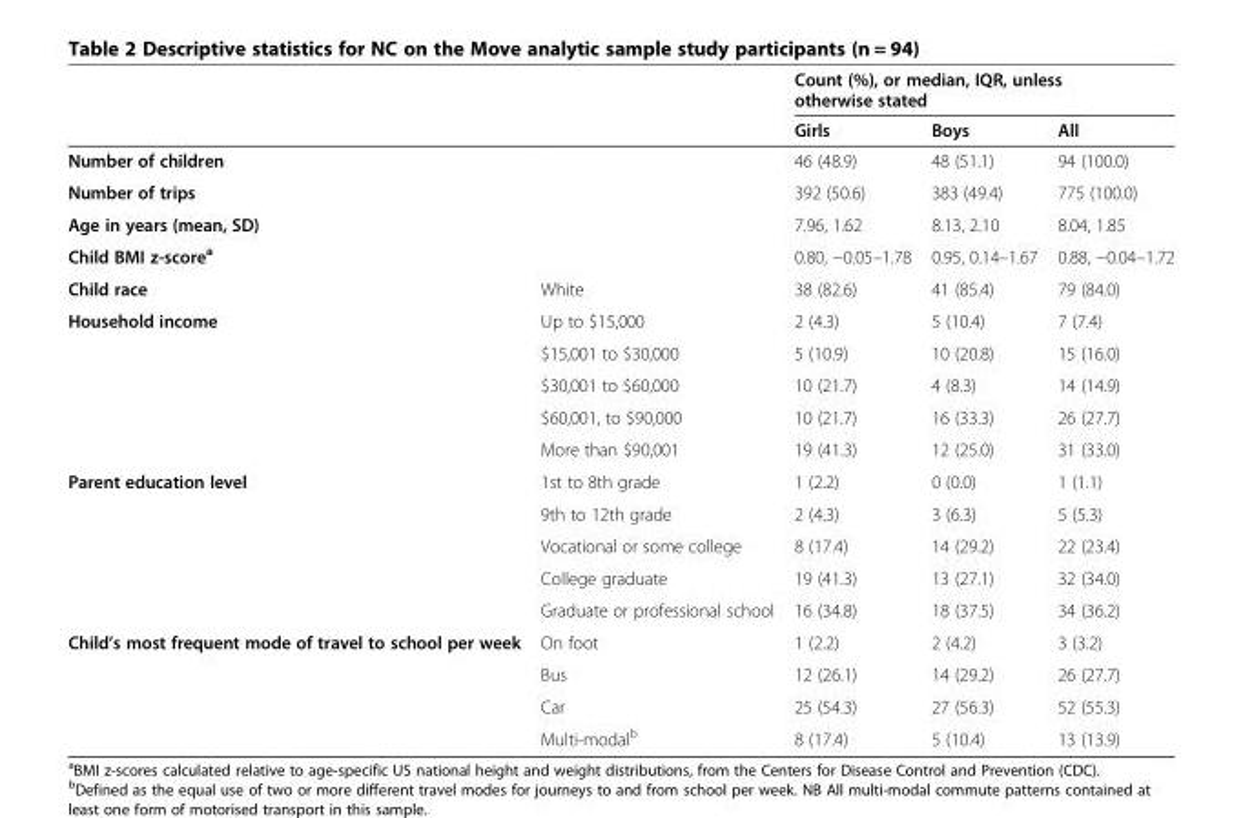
<table><thead><tr><td rowspan="2"></td><td rowspan="2"></td><td colspan="3">Count (%), or median, IQR, unless otherwise stated</td></tr><tr><td>Girls</td><td>Boys</td><td>All</td></tr></thead><tbody><tr><td>Number of children</td><td></td><td>46 (48.9)</td><td>48 (51.1)</td><td>94 (100.0)</td></tr><tr><td>Number of trips</td><td></td><td>392 (50.6)</td><td>383 (49.4)</td><td>775 (100.0)</td></tr><tr><td>Age in years (mean, SD)</td><td></td><td>7.96, 1.62</td><td>8.13, 2.10</td><td>8.04, 1.85</td></tr><tr><td>Child BMI z-score<sup>a</sup></td><td></td><td>0.80, −0.05–1.78</td><td>0.95, 0.14–1.67</td><td>0.88, −0.04–1.72</td></tr><tr><td>Child race</td><td>White</td><td>38 (82.6)</td><td>41 (85.4)</td><td>79 (84.0)</td></tr><tr><td rowspan="5">Household income</td><td>Up to $15,000</td><td>2 (4.3)</td><td>5 (10.4)</td><td>7 (7.4)</td></tr><tr><td>$15,001 to $30,000</td><td>5 (10.9)</td><td>10 (20.8)</td><td>15 (16.0)</td></tr><tr><td>$30,001 to $60,000</td><td>10 (21.7)</td><td>4 (8.3)</td><td>14 (14.9)</td></tr><tr><td>$60,001, to $90,000</td><td>10 (21.7)</td><td>16 (33.3)</td><td>26 (27.7)</td></tr><tr><td>More than $90,001</td><td>19 (41.3)</td><td>12 (25.0)</td><td>31 (33.0)</td></tr><tr><td rowspan="5">Parent education level</td><td>1st to 8th grade</td><td>1 (2.2)</td><td>0 (0.0)</td><td>1 (1.1)</td></tr><tr><td>9th to 12th grade</td><td>2 (4.3)</td><td>3 (6.3)</td><td>5 (5.3)</td></tr><tr><td>Vocational or some college</td><td>8 (17.4)</td><td>14 (29.2)</td><td>22 (23.4)</td></tr><tr><td>College graduate</td><td>19 (41.3)</td><td>13 (27.1)</td><td>32 (34.0)</td></tr><tr><td>Graduate or professional school</td><td>16 (34.8)</td><td>18 (37.5)</td><td>34 (36.2)</td></tr><tr><td rowspan="4">Child’s most frequent mode of travel to school per week</td><td>On foot</td><td>1 (2.2)</td><td>2 (4.2)</td><td>3 (3.2)</td></tr><tr><td>Bus</td><td>12 (26.1)</td><td>14 (29.2)</td><td>26 (27.7)</td></tr><tr><td>Car</td><td>25 (54.3)</td><td>27 (56.3)</td><td>52 (55.3)</td></tr><tr><td>Multi-modal<sup>b</sup></td><td>8 (17.4)</td><td>5 (10.4)</td><td>13 (13.9)</td></tr></tbody></table>